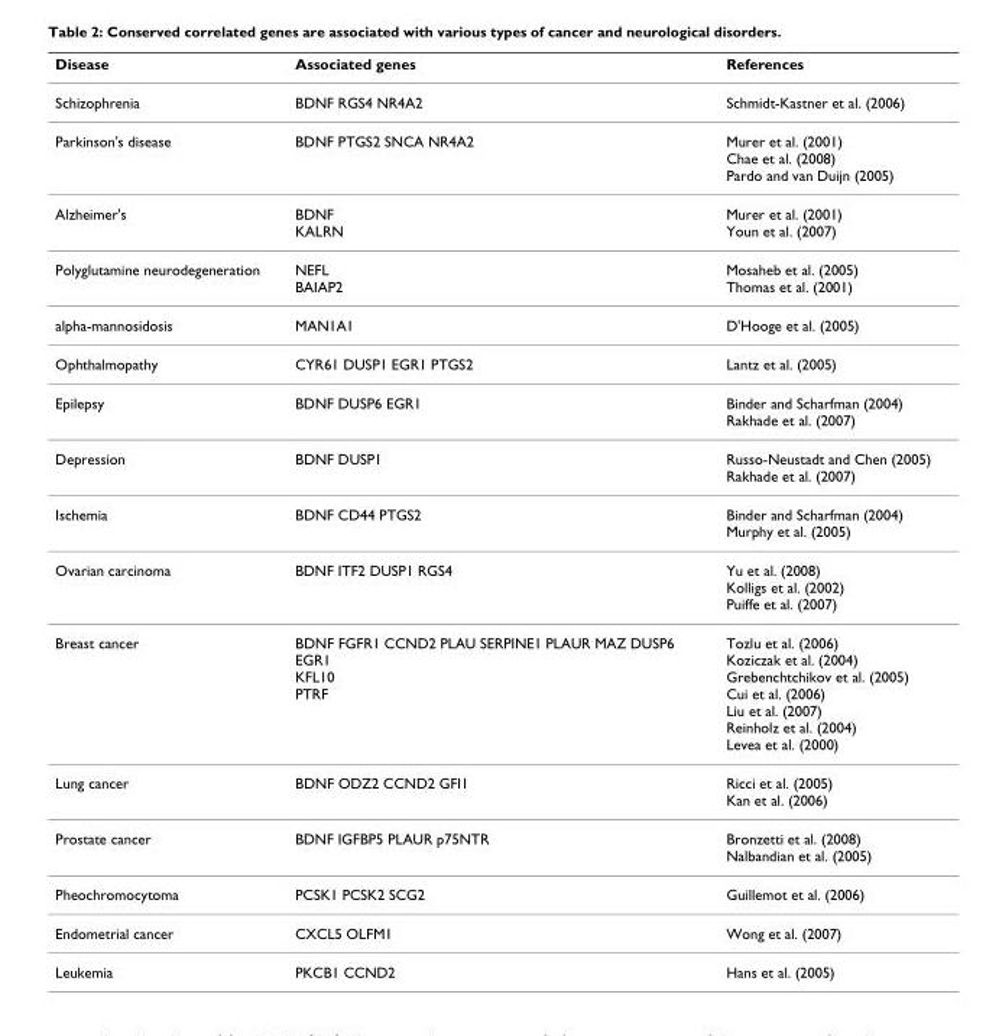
<table><thead><tr><td>Disease</td><td>Associated genes</td><td>References</td></tr></thead><tbody><tr><td>Schizophrenia</td><td>BDNF RGS4 NR4A2</td><td>Schmidt-Kastner et al. (2006)</td></tr><tr><td>Parkinson&#x27;s disease</td><td>BDNF PTGS2 SNCA NR4A2</td><td>Murer et al. (2001) Chae et al. (2008) Pardo and van Duijn (2005)</td></tr><tr><td>Alzheimer&#x27;s</td><td>BDNF KALRN</td><td>Murer et al. (2001) Youn et al. (2007)</td></tr><tr><td>Polyglutamine neurodegeneration</td><td>NEFL BAIAP2</td><td>Mosaheb et al. (2005) Thomas et al. (2001)</td></tr><tr><td>alpha-mannosidosis</td><td>MAN1A1</td><td>D&#x27;Hooge et al. (2005)</td></tr><tr><td>Ophthalmopathy</td><td>CYR61 DUSP1 EGR1 PTGS2</td><td>Lantz et al. (2005)</td></tr><tr><td>Epilepsy</td><td>BDNF DUSP6 EGR1</td><td>Binder and Scharfman (2004) Rakhade et al. (2007)</td></tr><tr><td>Depression</td><td>BDNF DUSP1</td><td>Russo-Neustadt and Chen (2005) Rakhade et al. (2007)</td></tr><tr><td>Ischemia</td><td>BDNF CD44 PTGS2</td><td>Binder and Scharfman (2004) Murphy et al. (2005)</td></tr><tr><td>Ovarian carcinoma</td><td>BDNF ITF2 DUSP1 RGS4</td><td>Yu et al. (2008) Kolligs et al. (2002) Puiffe et al. (2007)</td></tr><tr><td>Breast cancer</td><td>BDNF FGFR1 CCND2 PLAU SERPINE1 PLAUR MAZ DUSP6 EGR1 KFL10 PTRF</td><td>Tozlu et al. (2006) Koziczak et al. (2004) Grebenchtchikov et al. (2005) Cui et al. (2006) Liu et al. (2007) Reinholz et al. (2004) Levea et al. (2000)</td></tr><tr><td>Lung cancer</td><td>BDNF ODZ2 CCND2 GFI1</td><td>Ricci et al. (2005) Kan et al. (2006)</td></tr><tr><td>Prostate cancer</td><td>BDNF IGFBP5 PLAUR p75NTR</td><td>Bronzetti et al. (2008) Nalbandian et al. (2005)</td></tr><tr><td>Pheochromocytoma</td><td>PCSK1 PCSK2 SCG2</td><td>Guillemot et al. (2006)</td></tr><tr><td>Endometrial cancer</td><td>CXCL5 OLFM1</td><td>Wong et al. (2007)</td></tr><tr><td>Leukemia</td><td>PKCB1 CCND2</td><td>Hans et al. (2005)</td></tr></tbody></table>